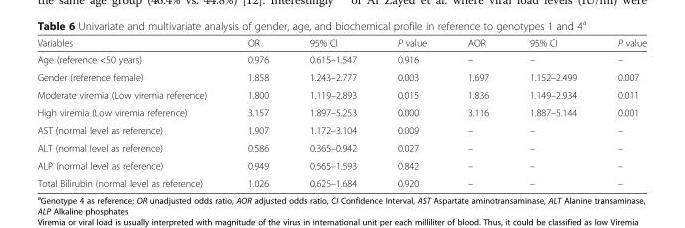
<table><thead><tr><td>Variables</td><td>OR</td><td>95% CI</td><td>P value</td><td>AOR</td><td>95% CI</td><td>P value</td></tr></thead><tbody><tr><td>Age (reference &lt;50 years)</td><td>0.976</td><td>0.615–1.547</td><td>0.916</td><td>–</td><td>–</td><td>–</td></tr><tr><td>Gender (reference female)</td><td>1.858</td><td>1.243–2.777</td><td>0.003</td><td>1.697</td><td>1.152–2.499</td><td>0.007</td></tr><tr><td>Moderate viremia (Low viremia reference)</td><td>1.800</td><td>1.119–2.893</td><td>0.015</td><td>1.836</td><td>1.149–2.934</td><td>0.011</td></tr><tr><td>High viremia (Low viremia reference)</td><td>3.157</td><td>1.897–5.253</td><td>0.000</td><td>3.116</td><td>1.887–5.144</td><td>0.001</td></tr><tr><td>AST (normal level as reference)</td><td>1.907</td><td>1.172–3.104</td><td>0.009</td><td>–</td><td>–</td><td>–</td></tr><tr><td>ALT (normal level as reference)</td><td>0.586</td><td>0.365–0.942</td><td>0.027</td><td>–</td><td>–</td><td>–</td></tr><tr><td>ALP (normal level as reference)</td><td>0.949</td><td>0.565–1.593</td><td>0.842</td><td>–</td><td>–</td><td>–</td></tr><tr><td>Total Bilirubin (normal level as reference)</td><td>1.026</td><td>0.625–1.684</td><td>0.920</td><td>–</td><td>–</td><td>–</td></tr></tbody></table>